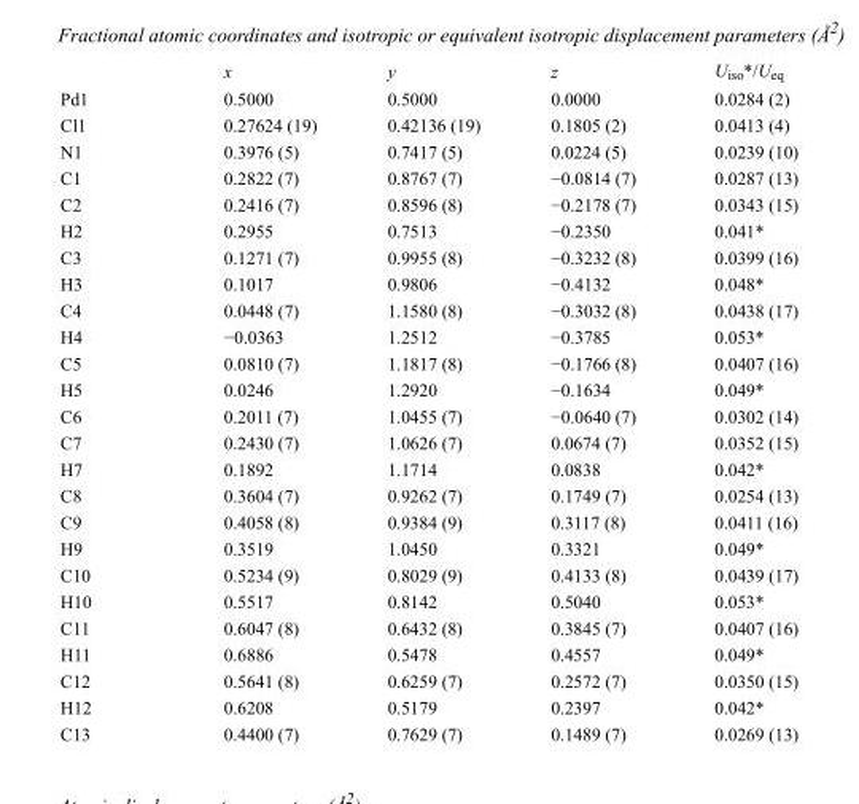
<table><thead><tr><td></td><td>x</td><td>y</td><td>z</td><td>U<sub>iso</sub>*/U<sub>eq</sub></td></tr></thead><tbody><tr><td>Pd1</td><td>0.5000</td><td>0.5000</td><td>0.0000</td><td>0.0284 (2)</td></tr><tr><td>Cl1</td><td>0.27624 (19)</td><td>0.42136 (19)</td><td>0.1805 (2)</td><td>0.0413 (4)</td></tr><tr><td>N1</td><td>0.3976 (5)</td><td>0.7417 (5)</td><td>0.0224 (5)</td><td>0.0239 (10)</td></tr><tr><td>C1</td><td>0.2822 (7)</td><td>0.8767 (7)</td><td>−0.0814 (7)</td><td>0.0287 (13)</td></tr><tr><td>C2</td><td>0.2416 (7)</td><td>0.8596 (8)</td><td>−0.2178 (7)</td><td>0.0343 (15)</td></tr><tr><td>H2</td><td>0.2955</td><td>0.7513</td><td>−0.2350</td><td>0.041*</td></tr><tr><td>C3</td><td>0.1271 (7)</td><td>0.9955 (8)</td><td>−0.3232 (8)</td><td>0.0399 (16)</td></tr><tr><td>H3</td><td>0.1017</td><td>0.9806</td><td>−0.4132</td><td>0.048*</td></tr><tr><td>C4</td><td>0.0448 (7)</td><td>1.1580 (8)</td><td>−0.3032 (8)</td><td>0.0438 (17)</td></tr><tr><td>H4</td><td>−0.0363</td><td>1.2512</td><td>−0.3785</td><td>0.053*</td></tr><tr><td>C5</td><td>0.0810 (7)</td><td>1.1817 (8)</td><td>−0.1766 (8)</td><td>0.0407 (16)</td></tr><tr><td>H5</td><td>0.0246</td><td>1.2920</td><td>−0.1634</td><td>0.049*</td></tr><tr><td>C6</td><td>0.2011 (7)</td><td>1.0455 (7)</td><td>−0.0640 (7)</td><td>0.0302 (14)</td></tr><tr><td>C7</td><td>0.2430 (7)</td><td>1.0626 (7)</td><td>0.0674 (7)</td><td>0.0352 (15)</td></tr><tr><td>H7</td><td>0.1892</td><td>1.1714</td><td>0.0838</td><td>0.042*</td></tr><tr><td>C8</td><td>0.3604 (7)</td><td>0.9262 (7)</td><td>0.1749 (7)</td><td>0.0254 (13)</td></tr><tr><td>C9</td><td>0.4058 (8)</td><td>0.9384 (9)</td><td>0.3117 (8)</td><td>0.0411 (16)</td></tr><tr><td>H9</td><td>0.3519</td><td>1.0450</td><td>0.3321</td><td>0.049*</td></tr><tr><td>C10</td><td>0.5234 (9)</td><td>0.8029 (9)</td><td>0.4133 (8)</td><td>0.0439 (17)</td></tr><tr><td>H10</td><td>0.5517</td><td>0.8142</td><td>0.5040</td><td>0.053*</td></tr><tr><td>C11</td><td>0.6047 (8)</td><td>0.6432 (8)</td><td>0.3845 (7)</td><td>0.0407 (16)</td></tr><tr><td>H11</td><td>0.6886</td><td>0.5478</td><td>0.4557</td><td>0.049*</td></tr><tr><td>C12</td><td>0.5641 (8)</td><td>0.6259 (7)</td><td>0.2572 (7)</td><td>0.0350 (15)</td></tr><tr><td>H12</td><td>0.6208</td><td>0.5179</td><td>0.2397</td><td>0.042*</td></tr><tr><td>C13</td><td>0.4400 (7)</td><td>0.7629 (7)</td><td>0.1489 (7)</td><td>0.0269 (13)</td></tr></tbody></table>